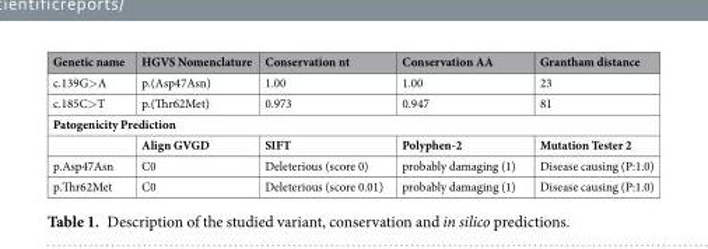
<table><thead><tr><td>Genetic name</td><td>HGVS Nomenclature</td><td>Conservation nt</td><td>Conservation AA</td><td>Grantham distance</td></tr></thead><tbody><tr><td>c.139G&gt;A</td><td>p.(Asp47Asn)</td><td>1.00</td><td>1.00</td><td>23</td></tr><tr><td>c.185C&gt;T</td><td>p.(Thr62Met)</td><td>0.973</td><td>0.947</td><td>81</td></tr><tr><td colspan="5">Patogenicity Prediction</td></tr><tr><td></td><td>Align GVGD</td><td>SIFT</td><td>Polyphen-2</td><td>Mutation Tester 2</td></tr><tr><td>p.Asp47Asn</td><td>C0</td><td>Deleterious (score 0)</td><td>probably damaging (1)</td><td>Disease causing (P:1.0)</td></tr><tr><td>p.Thr62Met</td><td>C0</td><td>Deleterious (score 0.01)</td><td>probably damaging (1)</td><td>Disease causing (P:1.0)</td></tr></tbody></table>